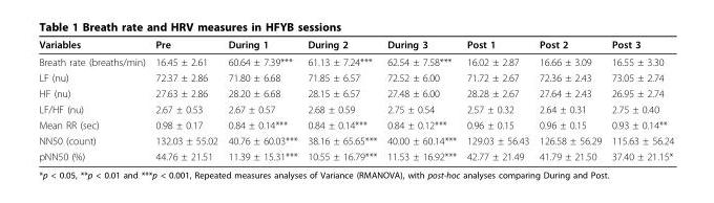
<table><thead><tr><td>Variables</td><td>Pre</td><td>During 1</td><td>During 2</td><td>During 3</td><td>Post 1</td><td>Post 2</td><td>Post 3</td></tr></thead><tbody><tr><td>Breath rate (breaths/min)</td><td>16.45 ± 2.61</td><td>60.64 ± 7.39***</td><td>61.13 ± 7.24***</td><td>62.54 ± 7.58***</td><td>16.02 ± 2.87</td><td>16.66 ± 3.09</td><td>16.55 ± 3.30</td></tr><tr><td>LF (nu)</td><td>72.37 ± 2.86</td><td>71.80 ± 6.68</td><td>71.85 ± 6.57</td><td>72.52 ± 6.00</td><td>71.72 ± 2.67</td><td>72.36 ± 2.43</td><td>73.05 ± 2.74</td></tr><tr><td>HF (nu)</td><td>27.63 ± 2.86</td><td>28.20 ± 6.68</td><td>28.15 ± 6.57</td><td>27.48 ± 6.00</td><td>28.28 ± 2.67</td><td>27.64 ± 2.43</td><td>26.95 ± 2.74</td></tr><tr><td>LF/HF (nu)</td><td>2.67 ± 0.53</td><td>2.67 ± 0.57</td><td>2.68 ± 0.59</td><td>2.75 ± 0.54</td><td>2.57 ± 0.32</td><td>2.64 ± 0.31</td><td>2.75 ± 0.40</td></tr><tr><td>Mean RR (sec)</td><td>0.98 ± 0.17</td><td>0.84 ± 0.14***</td><td>0.84 ± 0.14***</td><td>0.84 ± 0.12***</td><td>0.96 ± 0.15</td><td>0.96 ± 0.15</td><td>0.93 ± 0.14**</td></tr><tr><td>NN50 (count)</td><td>132.03 ± 55.02</td><td>40.76 ± 60.03***</td><td>38.16 ± 65.65***</td><td>40.00 ± 60.14***</td><td>129.03 ± 56.43</td><td>126.58 ± 56.29</td><td>115.63 ± 56.24</td></tr><tr><td>pNN50 (%)</td><td>44.76 ± 21.51</td><td>11.39 ± 15.31***</td><td>10.55 ± 16.79***</td><td>11.53 ± 16.92***</td><td>42.77 ± 21.49</td><td>41.79 ± 21.50</td><td>37.40 ± 21.15*</td></tr></tbody></table>